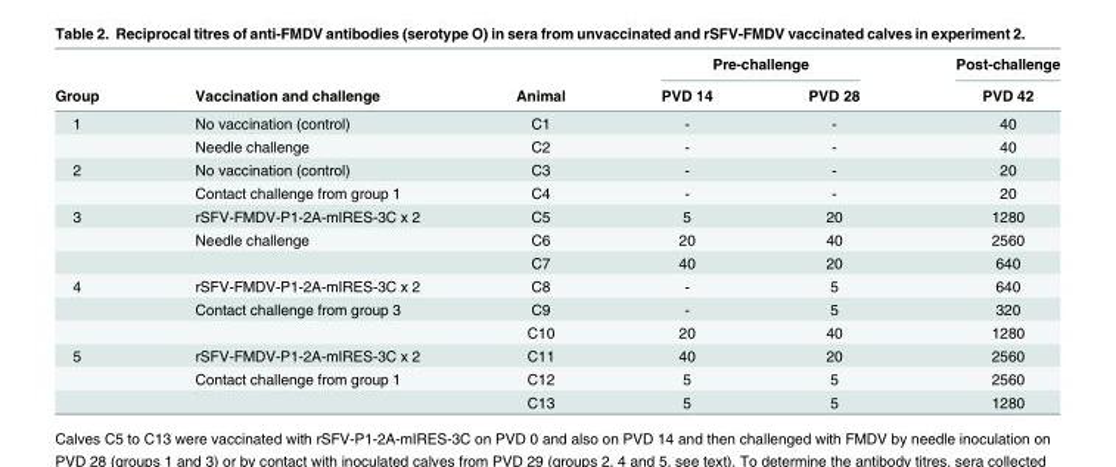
<table><thead><tr><td rowspan="2">Group</td><td rowspan="2">Vaccination and challenge</td><td rowspan="2">Animal</td><td colspan="2">Pre-challenge</td><td rowspan="2">Post-challenge PVD 42</td></tr><tr><td>PVD 14</td><td>PVD 28</td></tr></thead><tbody><tr><td rowspan="2">1</td><td>No vaccination (control)</td><td>C1</td><td>-</td><td>-</td><td>40</td></tr><tr><td>Needle challenge</td><td>C2</td><td>-</td><td>-</td><td>40</td></tr><tr><td rowspan="2">2</td><td>No vaccination (control)</td><td>C3</td><td>-</td><td>-</td><td>20</td></tr><tr><td>Contact challenge from group 1</td><td>C4</td><td>-</td><td>-</td><td>20</td></tr><tr><td rowspan="3">3</td><td>rSFV-FMDV-P1-2A-mIRES-3C x 2</td><td>C5</td><td>5</td><td>20</td><td>1280</td></tr><tr><td>Needle challenge</td><td>C6</td><td>20</td><td>40</td><td>2560</td></tr><tr><td></td><td>C7</td><td>40</td><td>20</td><td>640</td></tr><tr><td rowspan="3">4</td><td>rSFV-FMDV-P1-2A-mIRES-3C x 2</td><td>C8</td><td>-</td><td>5</td><td>640</td></tr><tr><td>Contact challenge from group 3</td><td>C9</td><td>-</td><td>5</td><td>320</td></tr><tr><td></td><td>C10</td><td>20</td><td>40</td><td>1280</td></tr><tr><td rowspan="3">5</td><td>rSFV-FMDV-P1-2A-mIRES-3C x 2</td><td>C11</td><td>40</td><td>20</td><td>2560</td></tr><tr><td>Contact challenge from group 1</td><td>C12</td><td>5</td><td>5</td><td>2560</td></tr><tr><td></td><td>C13</td><td>5</td><td>5</td><td>1280</td></tr></tbody></table>